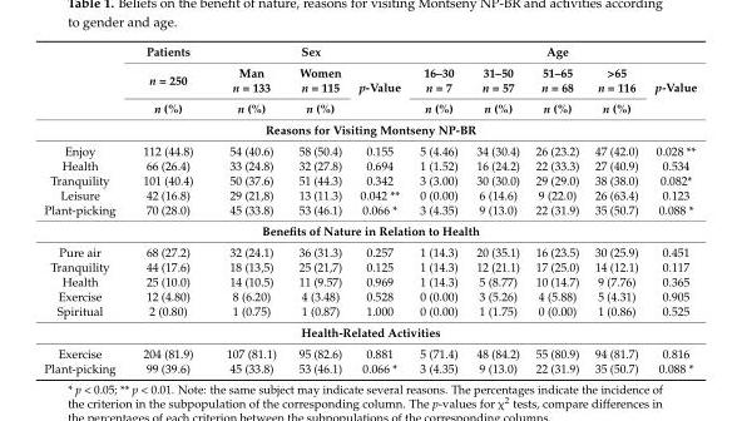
<table><thead><tr><td rowspan="3"></td><td rowspan="3">Patients n = 250 n (%)</td><td colspan="3">Sex</td><td colspan="5">Age</td></tr><tr><td rowspan="2">Man n = 133 n (%)</td><td rowspan="2">Women n = 115 n (%)</td><td rowspan="2">p-Value</td><td rowspan="2">16–30 n = 7 n (%)</td><td rowspan="2">31–50 n = 57 n (%)</td><td rowspan="2">51–65 n = 68 n (%)</td><td rowspan="2">&gt;65 n = 116 n (%)</td><td rowspan="2">p-Value</td></tr><tr></tr></thead><tbody><tr><td colspan="10">Reasons for Visiting Montseny NP-BR</td></tr><tr><td>Enjoy</td><td>112 (44.8)</td><td>54 (40.6)</td><td>58 (50.4)</td><td>0.155</td><td>5 (4.46)</td><td>34 (30.4)</td><td>26 (23.2)</td><td>47 (42.0)</td><td>0.028 **</td></tr><tr><td>Health</td><td>66 (26.4)</td><td>33 (24.8)</td><td>32 (27.8)</td><td>0.694</td><td>1 (1.52)</td><td>16 (24.2)</td><td>22 (33.3)</td><td>27 (40.9)</td><td>0.534</td></tr><tr><td>Tranquility</td><td>101 (40.4)</td><td>50 (37.6)</td><td>51 (44.3)</td><td>0.342</td><td>3 (3.00)</td><td>30 (30.0)</td><td>29 (29.0)</td><td>38 (38.0)</td><td>0.082*</td></tr><tr><td>Leisure</td><td>42 (16.8)</td><td>29 (21,8)</td><td>13 (11.3)</td><td>0.042 **</td><td>0 (0.00)</td><td>6 (14.6)</td><td>9 (22.0)</td><td>26 (63.4)</td><td>0.123</td></tr><tr><td>Plant-picking</td><td>70 (28.0)</td><td>45 (33.8)</td><td>53 (46.1)</td><td>0.066 *</td><td>3 (4.35)</td><td>9 (13.0)</td><td>22 (31.9)</td><td>35 (50.7)</td><td>0.088 *</td></tr><tr><td colspan="10">Benefits of Nature in Relation to Health</td></tr><tr><td>Pure air</td><td>68 (27.2)</td><td>32 (24.1)</td><td>36 (31.3)</td><td>0.257</td><td>1 (14.3)</td><td>20 (35.1)</td><td>16 (23.5)</td><td>30 (25.9)</td><td>0.451</td></tr><tr><td>Tranquility</td><td>44 (17.6)</td><td>18 (13,5)</td><td>25 (21,7)</td><td>0.125</td><td>1 (14.3)</td><td>12 (21.1)</td><td>17 (25.0)</td><td>14 (12.1)</td><td>0.117</td></tr><tr><td>Health</td><td>25 (10.0)</td><td>14 (10.5)</td><td>11 (9.57)</td><td>0.969</td><td>1 (14.3)</td><td>5 (8.77)</td><td>10 (14.7)</td><td>9 (7.76)</td><td>0.365</td></tr><tr><td>Exercise</td><td>12 (4.80)</td><td>8 (6.20)</td><td>4 (3.48)</td><td>0.528</td><td>0 (0.00)</td><td>3 (5.26)</td><td>4 (5.88)</td><td>5 (4.31)</td><td>0.905</td></tr><tr><td>Spiritual</td><td>2 (0.80)</td><td>1 (0.75)</td><td>1 (0.87)</td><td>1.000</td><td>0 (0.00)</td><td>1 (1.75)</td><td>0 (0.00)</td><td>1 (0.86)</td><td>0.525</td></tr><tr><td colspan="10">Health-Related Activities</td></tr><tr><td>Exercise</td><td>204 (81.9)</td><td>107 (81.1)</td><td>95 (82.6)</td><td>0.881</td><td>5 (71.4)</td><td>48 (84.2)</td><td>55 (80.9)</td><td>94 (81.7)</td><td>0.816</td></tr><tr><td>Plant-picking</td><td>99 (39.6)</td><td>45 (33.8)</td><td>53 (46.1)</td><td>0.066 *</td><td>3 (4.35)</td><td>9 (13.0)</td><td>22 (31.9)</td><td>35 (50.7)</td><td>0.088 *</td></tr></tbody></table>